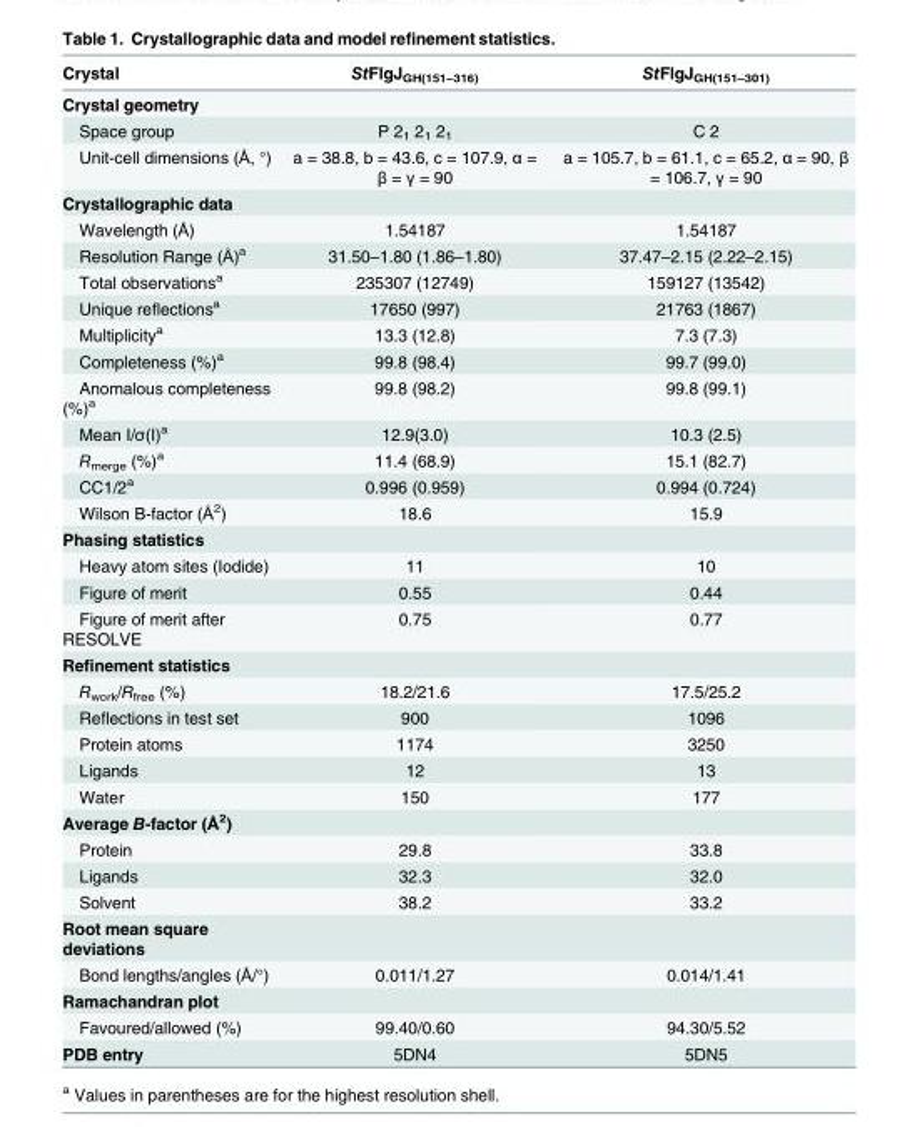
<table><thead><tr><td>Crystal</td><td>StFlgJ<sub>GH(151–316)</sub></td><td>StFlgJ<sub>GH(151–301)</sub></td></tr></thead><tbody><tr><td colspan="3">Crystal geometry</td></tr><tr><td>Space group</td><td>P 2<sub>1</sub> 2<sub>1</sub> 2<sub>1</sub></td><td>C 2</td></tr><tr><td>Unit-cell dimensions (Å, °)</td><td>a = 38.8, b = 43.6, c = 107.9, α = β = γ = 90</td><td>a = 105.7, b = 61.1, c = 65.2, α = 90, β = 106.7, γ = 90</td></tr><tr><td colspan="3">Crystallographic data</td></tr><tr><td>Wavelength (Å)</td><td>1.54187</td><td>1.54187</td></tr><tr><td>Resolution Range (Å)<sup>a</sup></td><td>31.50–1.80 (1.86–1.80)</td><td>37.47–2.15 (2.22–2.15)</td></tr><tr><td>Total observations<sup>a</sup></td><td>235307 (12749)</td><td>159127 (13542)</td></tr><tr><td>Unique reflections<sup>a</sup></td><td>17650 (997)</td><td>21763 (1867)</td></tr><tr><td>Multiplicity<sup>a</sup></td><td>13.3 (12.8)</td><td>7.3 (7.3)</td></tr><tr><td>Completeness (%)<sup>a</sup></td><td>99.8 (98.4)</td><td>99.7 (99.0)</td></tr><tr><td>Anomalous completeness (%)<sup>a</sup></td><td>99.8 (98.2)</td><td>99.8 (99.1)</td></tr><tr><td>Mean I/σ(I)<sup>a</sup></td><td>12.9(3.0)</td><td>10.3 (2.5)</td></tr><tr><td>R<sub>merge</sub> (%)<sup>a</sup></td><td>11.4 (68.9)</td><td>15.1 (82.7)</td></tr><tr><td>CC1/2<sup>a</sup></td><td>0.996 (0.959)</td><td>0.994 (0.724)</td></tr><tr><td>Wilson B-factor (Å<sup>2</sup>)</td><td>18.6</td><td>15.9</td></tr><tr><td colspan="3">Phasing statistics</td></tr><tr><td>Heavy atom sites (Iodide)</td><td>11</td><td>10</td></tr><tr><td>Figure of merit</td><td>0.55</td><td>0.44</td></tr><tr><td>Figure of merit after RESOLVE</td><td>0.75</td><td>0.77</td></tr><tr><td colspan="3">Refinement statistics</td></tr><tr><td>R<sub>work</sub>/R<sub>free</sub> (%)</td><td>18.2/21.6</td><td>17.5/25.2</td></tr><tr><td>Reflections in test set</td><td>900</td><td>1096</td></tr><tr><td>Protein atoms</td><td>1174</td><td>3250</td></tr><tr><td>Ligands</td><td>12</td><td>13</td></tr><tr><td>Water</td><td>150</td><td>177</td></tr><tr><td colspan="3">Average B-factor (Å<sup>2</sup>)</td></tr><tr><td>Protein</td><td>29.8</td><td>33.8</td></tr><tr><td>Ligands</td><td>32.3</td><td>32.0</td></tr><tr><td>Solvent</td><td>38.2</td><td>33.2</td></tr><tr><td colspan="3">Root mean square deviations</td></tr><tr><td>Bond lengths/angles (Å/°)</td><td>0.011/1.27</td><td>0.014/1.41</td></tr><tr><td colspan="3">Ramachandran plot</td></tr><tr><td>Favoured/allowed (%)</td><td>99.40/0.60</td><td>94.30/5.52</td></tr><tr><td>PDB entry</td><td>5DN4</td><td>5DN5</td></tr></tbody></table>